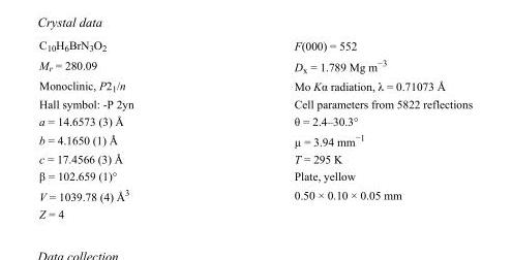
<table><tbody><tr><td>C<sub>10</sub>H<sub>6</sub>BrN<sub>3</sub>O<sub>2</sub></td><td>F(000) = 552</td></tr><tr><td>M<sub>r</sub> = 280.09</td><td>D<sub>x</sub> = 1.789 Mg m<sup>−3</sup></td></tr><tr><td>Monoclinic, P2<sub>1</sub>/n</td><td>Mo Kα radiation, λ = 0.71073 Å</td></tr><tr><td>Hall symbol: -P 2yn</td><td>Cell parameters from 5822 reflections</td></tr><tr><td>a = 14.6573 (3) Å</td><td>θ = 2.4–30.3°</td></tr><tr><td>b = 4.1650 (1) Å</td><td>µ = 3.94 mm<sup>−1</sup></td></tr><tr><td>c = 17.4566 (3) Å</td><td>T = 295 K</td></tr><tr><td>β = 102.659 (1)°</td><td>Plate, yellow</td></tr><tr><td>V = 1039.78 (4) Å<sup>3</sup></td><td>0.50 × 0.10 × 0.05 mm</td></tr><tr><td>Z = 4</td><td></td></tr></tbody></table>